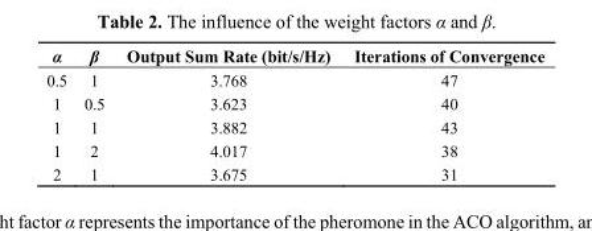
<table><thead><tr><td>α</td><td>β</td><td>Output Sum Rate (bit/s/Hz)</td><td>Iterations of Convergence</td></tr></thead><tbody><tr><td>0.5</td><td>1</td><td>3.768</td><td>47</td></tr><tr><td>1</td><td>0.5</td><td>3.623</td><td>40</td></tr><tr><td>1</td><td>1</td><td>3.882</td><td>43</td></tr><tr><td>1</td><td>2</td><td>4.017</td><td>38</td></tr><tr><td>2</td><td>1</td><td>3.675</td><td>31</td></tr></tbody></table>